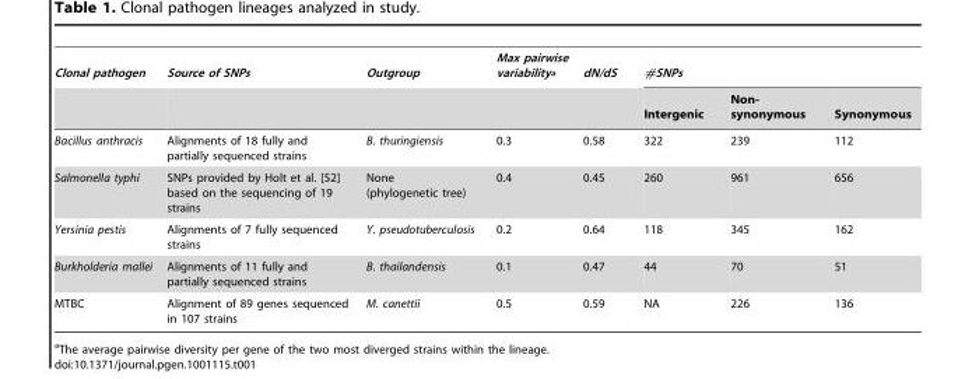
<table><thead><tr><td rowspan="2">Clonal pathogen</td><td rowspan="2">Source of SNPs</td><td rowspan="2">Outgroup</td><td rowspan="2">Max pairwise variabilitya</td><td rowspan="2">dN/dS</td><td colspan="3">#SNPs</td></tr><tr><td>Intergenic</td><td>Non- synonymous</td><td>Synonymous</td></tr></thead><tbody><tr><td>Bacillus anthracis</td><td>Alignments of 18 fully and partially sequenced strains</td><td>B. thuringiensis</td><td>0.3</td><td>0.58</td><td>322</td><td>239</td><td>112</td></tr><tr><td>Salmonella typhi</td><td>SNPs provided by Holt et al. [52] based on the sequencing of 19 strains</td><td>None (phylogenetic tree)</td><td>0.4</td><td>0.45</td><td>260</td><td>961</td><td>656</td></tr><tr><td>Yersinia pestis</td><td>Alignments of 7 fully sequenced strains</td><td>Y. pseudotuberculosis</td><td>0.2</td><td>0.64</td><td>118</td><td>345</td><td>162</td></tr><tr><td>Burkholderia mallei</td><td>Alignments of 11 fully and partially sequenced strains</td><td>B. thailandensis</td><td>0.1</td><td>0.47</td><td>44</td><td>70</td><td>51</td></tr><tr><td>MTBC</td><td>Alignment of 89 genes sequenced in 107 strains</td><td>M. canettii</td><td>0.5</td><td>0.59</td><td>NA</td><td>226</td><td>136</td></tr></tbody></table>